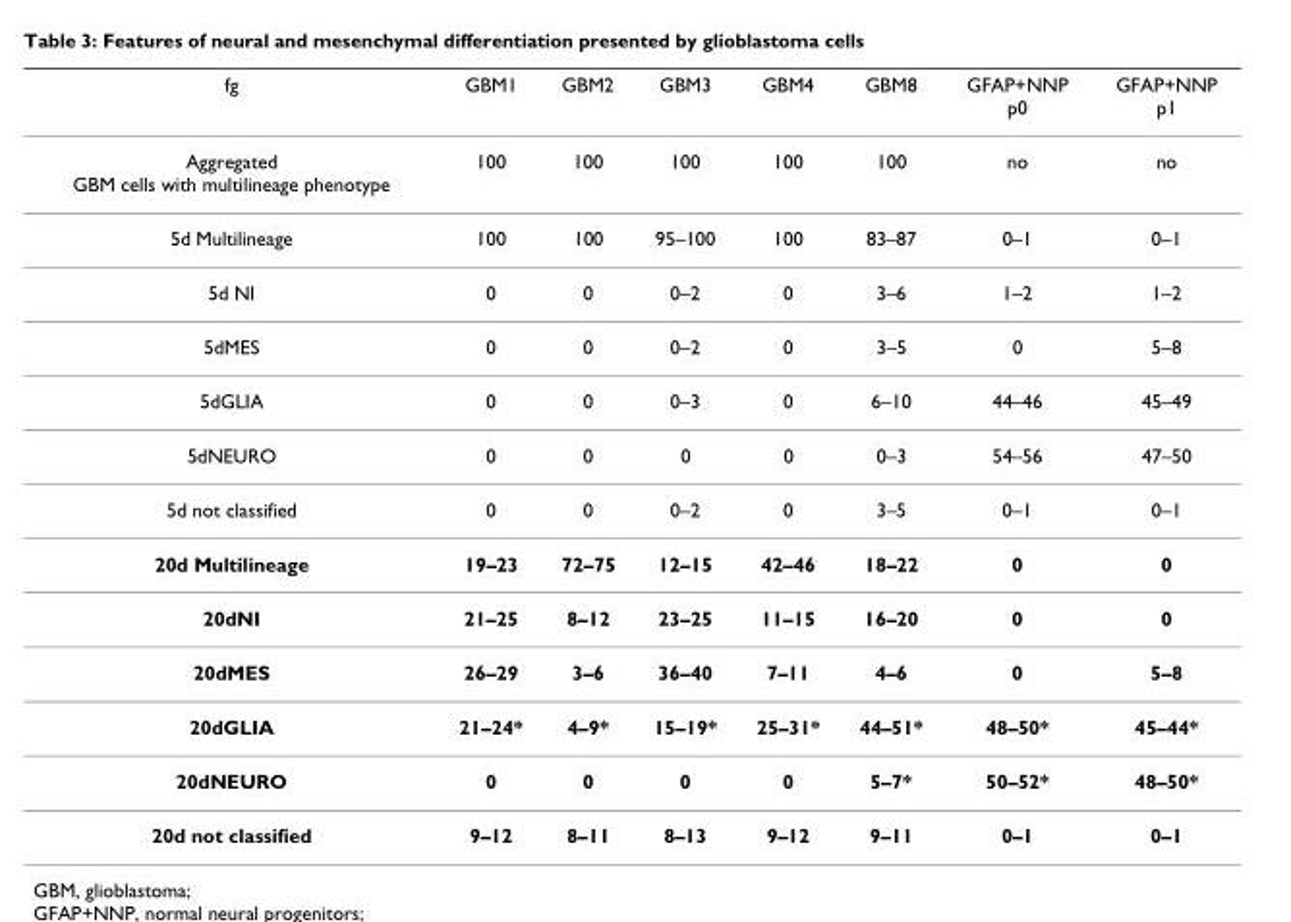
<table><thead><tr><td>fg</td><td>GBM1</td><td>GBM2</td><td>GBM3</td><td>GBM4</td><td>GBM8</td><td>GFAP+NNP p0</td><td>GFAP+NNP p1</td></tr></thead><tbody><tr><td>Aggregated GBM cells with multilineage phenotype</td><td>100</td><td>100</td><td>100</td><td>100</td><td>100</td><td>no</td><td>no</td></tr><tr><td>5d Multilineage</td><td>100</td><td>100</td><td>95–100</td><td>100</td><td>83–87</td><td>0–1</td><td>0–1</td></tr><tr><td>5d NI</td><td>0</td><td>0</td><td>0–2</td><td>0</td><td>3–6</td><td>1–2</td><td>1–2</td></tr><tr><td>5dMES</td><td>0</td><td>0</td><td>0–2</td><td>0</td><td>3–5</td><td>0</td><td>5–8</td></tr><tr><td>5dGLIA</td><td>0</td><td>0</td><td>0–3</td><td>0</td><td>6–10</td><td>44–46</td><td>45–49</td></tr><tr><td>5dNEURO</td><td>0</td><td>0</td><td>0</td><td>0</td><td>0–3</td><td>54–56</td><td>47–50</td></tr><tr><td>5d not classified</td><td>0</td><td>0</td><td>0–2</td><td>0</td><td>3–5</td><td>0–1</td><td>0–1</td></tr><tr><td>20d Multilineage</td><td>19–23</td><td>72–75</td><td>12–15</td><td>42–46</td><td>18–22</td><td>0</td><td>0</td></tr><tr><td>20dNI</td><td>21–25</td><td>8–12</td><td>23–25</td><td>11–15</td><td>16–20</td><td>0</td><td>0</td></tr><tr><td>20dMES</td><td>26–29</td><td>3–6</td><td>36–40</td><td>7–11</td><td>4–6</td><td>0</td><td>5–8</td></tr><tr><td>20dGLIA</td><td>21–24*</td><td>4–9*</td><td>15–19*</td><td>25–31*</td><td>44–51*</td><td>48–50*</td><td>45–44*</td></tr><tr><td>20dNEURO</td><td>0</td><td>0</td><td>0</td><td>0</td><td>5–7*</td><td>50–52*</td><td>48–50*</td></tr><tr><td>20d not classified</td><td>9–12</td><td>8–11</td><td>8–13</td><td>9–12</td><td>9–11</td><td>0–1</td><td>0–1</td></tr></tbody></table>